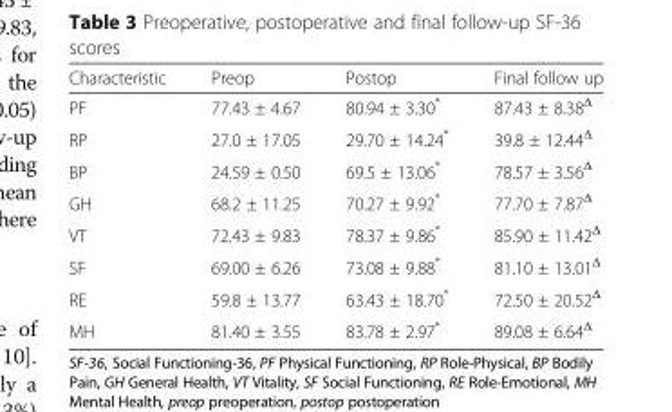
<table><thead><tr><td>Characteristic</td><td>Preop</td><td>Postop</td><td>Final follow up</td></tr></thead><tbody><tr><td>PF</td><td>77.43 ± 4.67</td><td>80.94 ± 3.30*</td><td>87.43 ± 8.38<sup>Δ</sup></td></tr><tr><td>RP</td><td>27.0 ± 17.05</td><td>29.70 ± 14.24*</td><td>39.8 ± 12.44<sup>Δ</sup></td></tr><tr><td>BP</td><td>24.59 ± 0.50</td><td>69.5 ± 13.06*</td><td>78.57 ± 3.56<sup>Δ</sup></td></tr><tr><td>GH</td><td>68.2 ± 11.25</td><td>70.27 ± 9.92*</td><td>77.70 ± 7.87<sup>Δ</sup></td></tr><tr><td>VT</td><td>72.43 ± 9.83</td><td>78.37 ± 9.86*</td><td>85.90 ± 11.42<sup>Δ</sup></td></tr><tr><td>SF</td><td>69.00 ± 6.26</td><td>73.08 ± 9.88*</td><td>81.10 ± 13.01<sup>Δ</sup></td></tr><tr><td>RE</td><td>59.8 ± 13.77</td><td>63.43 ± 18.70*</td><td>72.50 ± 20.52<sup>Δ</sup></td></tr><tr><td>MH</td><td>81.40 ± 3.55</td><td>83.78 ± 2.97*</td><td>89.08 ± 6.64<sup>Δ</sup></td></tr></tbody></table>